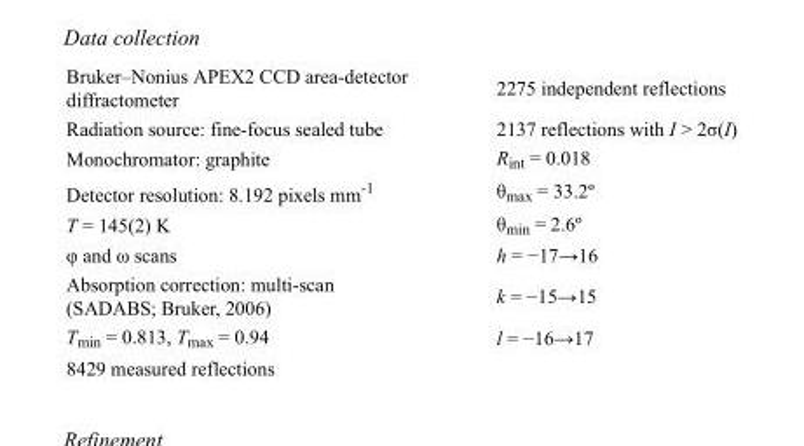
<table><tbody><tr><td>Bruker–Nonius APEX2 CCD area-detector diffractometer</td><td>2275 independent reflections</td></tr><tr><td>Radiation source: fine-focus sealed tube</td><td>2137 reflections with I &gt; 2σ(I)</td></tr><tr><td>Monochromator: graphite</td><td>R<sub>int</sub> = 0.018</td></tr><tr><td>Detector resolution: 8.192 pixels mm<sup>-1</sup></td><td>θ<sub>max</sub> = 33.2º</td></tr><tr><td>T = 145(2) K</td><td>θ<sub>min</sub> = 2.6º</td></tr><tr><td>φ and ω scans</td><td>h = −17→16</td></tr><tr><td>Absorption correction: multi-scan (SADABS; Bruker, 2006)</td><td>k = −15→15</td></tr><tr><td>T<sub>min</sub> = 0.813, T<sub>max</sub> = 0.94</td><td>l = −16→17</td></tr><tr><td>8429 measured reflections</td><td></td></tr></tbody></table>